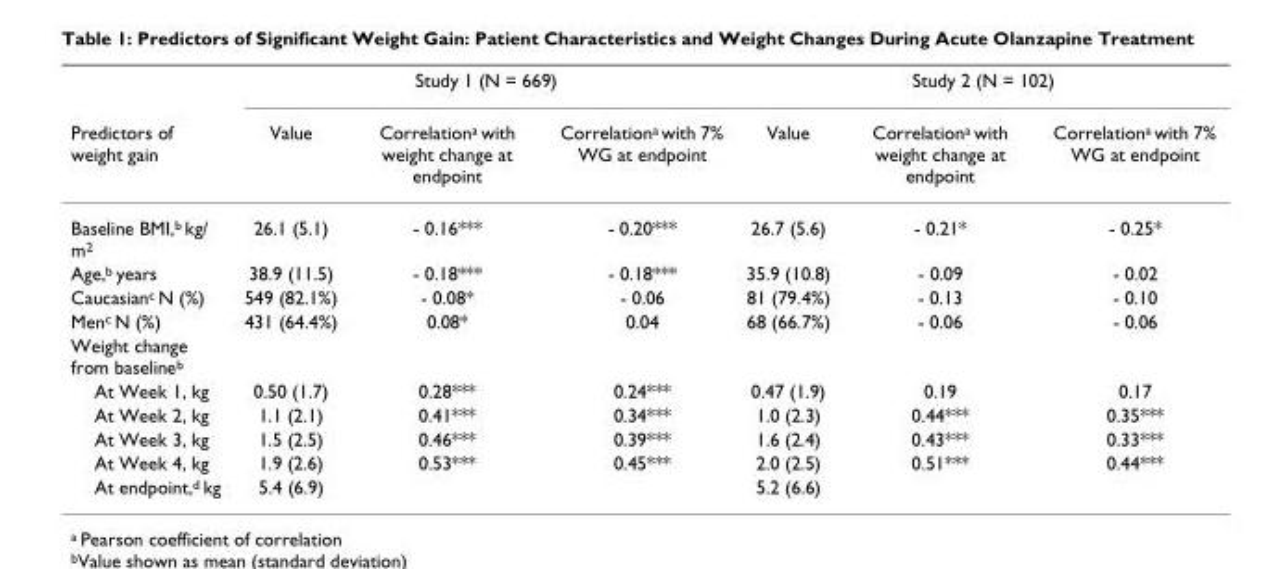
<table><thead><tr><td rowspan="2">Predictors of weight gain</td><td colspan="3">Study 1 (N = 669)</td><td colspan="3">Study 2 (N = 102)</td></tr><tr><td>Value</td><td>Correlation<sup>a</sup> with weight change at endpoint</td><td>Correlation<sup>a</sup> with 7% WG at endpoint</td><td>Value</td><td>Correlation<sup>a</sup> with weight change at endpoint</td><td>Correlation<sup>a</sup> with 7% WG at endpoint</td></tr></thead><tbody><tr><td>Baseline BMI,<sup>b</sup> kg/ m<sup>2</sup></td><td>26.1 (5.1)</td><td>- 0.16***</td><td>- 0.20***</td><td>26.7 (5.6)</td><td>- 0.21*</td><td>- 0.25*</td></tr><tr><td>Age,<sup>b</sup> years</td><td>38.9 (11.5)</td><td>- 0.18***</td><td>- 0.18***</td><td>35.9 (10.8)</td><td>- 0.09</td><td>- 0.02</td></tr><tr><td>Caucasian<sup>c</sup> N (%)</td><td>549 (82.1%)</td><td>- 0.08*</td><td>- 0.06</td><td>81 (79.4%)</td><td>- 0.13</td><td>- 0.10</td></tr><tr><td>Men<sup>c</sup> N (%)</td><td>431 (64.4%)</td><td>0.08*</td><td>0.04</td><td>68 (66.7%)</td><td>- 0.06</td><td>- 0.06</td></tr><tr><td colspan="7">Weight change from baseline<sup>b</sup></td></tr><tr><td>At Week 1, kg</td><td>0.50 (1.7)</td><td>0.28***</td><td>0.24***</td><td>0.47 (1.9)</td><td>0.19</td><td>0.17</td></tr><tr><td>At Week 2, kg</td><td>1.1 (2.1)</td><td>0.41***</td><td>0.34***</td><td>1.0 (2.3)</td><td>0.44***</td><td>0.35***</td></tr><tr><td>At Week 3, kg</td><td>1.5 (2.5)</td><td>0.46***</td><td>0.39***</td><td>1.6 (2.4)</td><td>0.43***</td><td>0.33***</td></tr><tr><td>At Week 4, kg</td><td>1.9 (2.6)</td><td>0.53***</td><td>0.45***</td><td>2.0 (2.5)</td><td>0.51***</td><td>0.44***</td></tr><tr><td>At endpoint,<sup>d</sup> kg</td><td>5.4 (6.9)</td><td></td><td></td><td>5.2 (6.6)</td><td></td><td></td></tr></tbody></table>